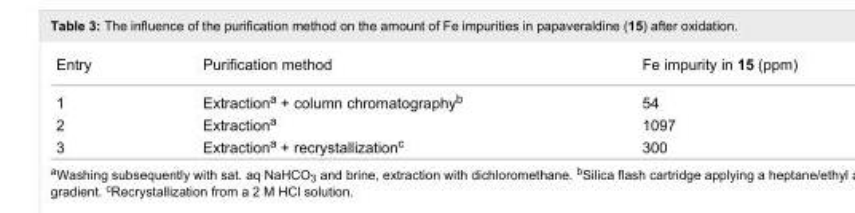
<table><tbody><tr><td>Entry</td><td>Purification method</td><td>Fe impurity in 15 (ppm)</td></tr><tr><td>1</td><td>Extraction<sup>a</sup> + column chromatography<sup>b</sup></td><td>54</td></tr><tr><td>2</td><td>Extraction<sup>a</sup></td><td>1097</td></tr><tr><td>3</td><td>Extraction<sup>a</sup> + recrystallization<sup>c</sup></td><td>300</td></tr></tbody></table>